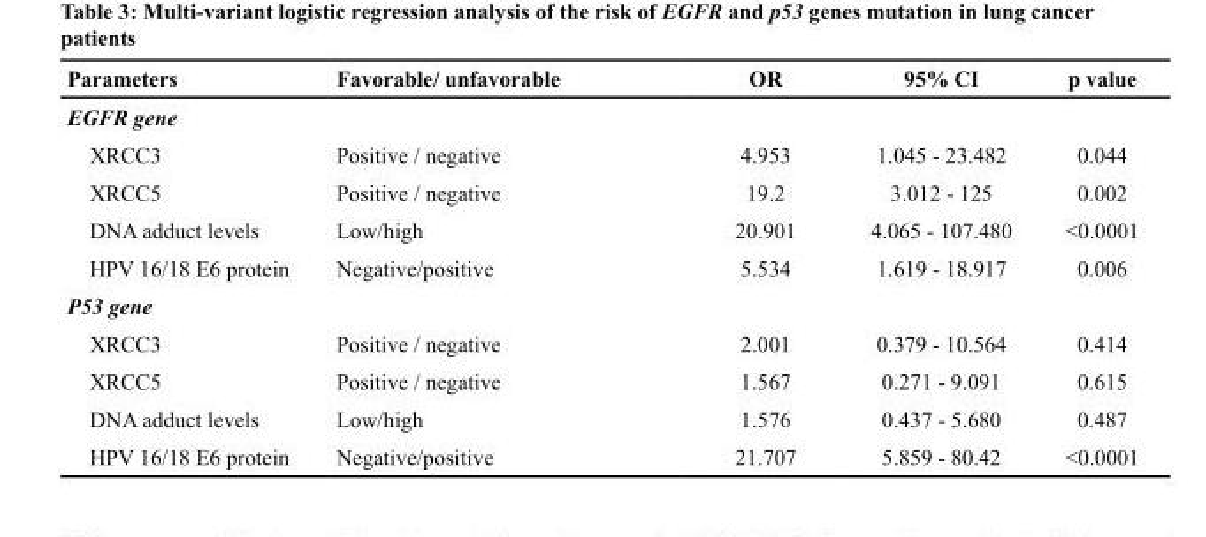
<table><thead><tr><td>Parameters</td><td>Favorable/ unfavorable</td><td>OR</td><td>95% CI</td><td>p value</td></tr></thead><tbody><tr><td colspan="5">EGFR gene</td></tr><tr><td>XRCC3</td><td>Positive / negative</td><td>4.953</td><td>1.045 - 23.482</td><td>0.044</td></tr><tr><td>XRCC5</td><td>Positive / negative</td><td>19.2</td><td>3.012 - 125</td><td>0.002</td></tr><tr><td>DNA adduct levels</td><td>Low/high</td><td>20.901</td><td>4.065 - 107.480</td><td>&lt;0.0001</td></tr><tr><td>HPV 16/18 E6 protein</td><td>Negative/positive</td><td>5.534</td><td>1.619 - 18.917</td><td>0.006</td></tr><tr><td colspan="5">P53 gene</td></tr><tr><td>XRCC3</td><td>Positive / negative</td><td>2.001</td><td>0.379 - 10.564</td><td>0.414</td></tr><tr><td>XRCC5</td><td>Positive / negative</td><td>1.567</td><td>0.271 - 9.091</td><td>0.615</td></tr><tr><td>DNA adduct levels</td><td>Low/high</td><td>1.576</td><td>0.437 - 5.680</td><td>0.487</td></tr><tr><td>HPV 16/18 E6 protein</td><td>Negative/positive</td><td>21.707</td><td>5.859 - 80.42</td><td>&lt;0.0001</td></tr></tbody></table>